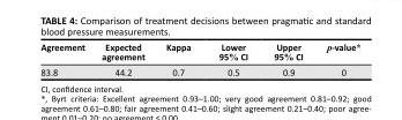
<table><thead><tr><td>Agreement</td><td>Expected agreement</td><td>Kappa</td><td>Lower 95% CI</td><td>Upper 95% CI</td><td>p-value*</td></tr></thead><tbody><tr><td>83.8</td><td>44.2</td><td>0.7</td><td>0.5</td><td>0.9</td><td>0</td></tr></tbody></table>